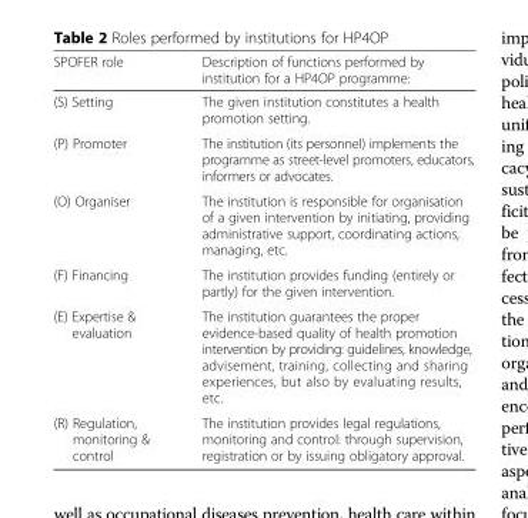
<table><thead><tr><td>SPOFER role</td><td>Description of functions performed by institution for a HP4OP programme:</td></tr></thead><tbody><tr><td>(S) Setting</td><td>The given institution constitutes a health promotion setting.</td></tr><tr><td>(P) Promoter</td><td>The institution (its personnel) implements the programme as street-level promoters, educators, informers or advocates.</td></tr><tr><td>(O) Organiser</td><td>The institution is responsible for organisation of a given intervention by initiating, providing administrative support, coordinating actions, managing, etc.</td></tr><tr><td>(F) Financing</td><td>The institution provides funding (entirely or partly) for the given intervention.</td></tr><tr><td>(E) Expertise &amp; evaluation</td><td>The institution guarantees the proper evidence-based quality of health promotion intervention by providing: guidelines, knowledge, advisement, training, collecting and sharing experiences, but also by evaluating results, etc.</td></tr><tr><td>(R) Regulation, monitoring &amp; control</td><td>The institution provides legal regulations, monitoring and control: through supervision, registration or by issuing obligatory approval.</td></tr></tbody></table>